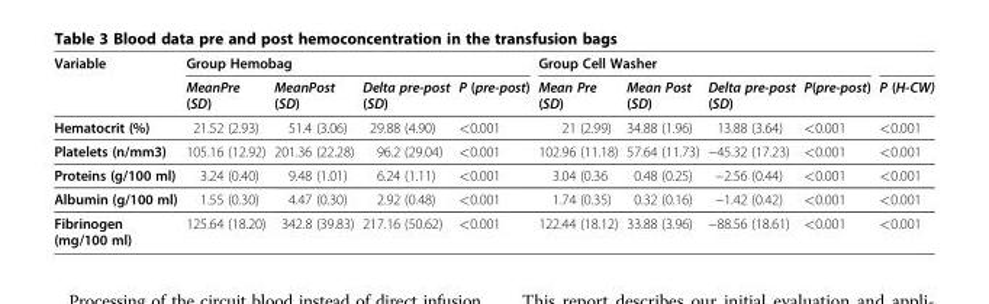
<table><thead><tr><td rowspan="2">Variable</td><td colspan="4">Group Hemobag</td><td colspan="4">Group Cell Washer</td><td rowspan="2">P (H-CW)</td></tr><tr><td>MeanPre (SD)</td><td>MeanPost (SD)</td><td>Delta pre-post (SD)</td><td>P (pre-post)</td><td>Mean Pre (SD)</td><td>Mean Post (SD)</td><td>Delta pre-post (SD)</td><td>P(pre-post)</td></tr></thead><tbody><tr><td>Hematocrit (%)</td><td>21.52 (2.93)</td><td>51.4 (3.06)</td><td>29.88 (4.90)</td><td>&lt;0.001</td><td>21 (2.99)</td><td>34.88 (1.96)</td><td>13.88 (3.64)</td><td>&lt;0.001</td><td>&lt;0.001</td></tr><tr><td>Platelets (n/mm3)</td><td>105.16 (12.92)</td><td>201.36 (22.28)</td><td>96.2 (29.04)</td><td>&lt;0.001</td><td>102.96 (11.18)</td><td>57.64 (11.73)</td><td>−45.32 (17.23)</td><td>&lt;0.001</td><td>&lt;0.001</td></tr><tr><td>Proteins (g/100 ml)</td><td>3.24 (0.40)</td><td>9.48 (1.01)</td><td>6.24 (1.11)</td><td>&lt;0.001</td><td>3.04 (0.36</td><td>0.48 (0.25)</td><td>−2.56 (0.44)</td><td>&lt;0.001</td><td>&lt;0.001</td></tr><tr><td>Albumin (g/100 ml)</td><td>1.55 (0.30)</td><td>4.47 (0.30)</td><td>2.92 (0.48)</td><td>&lt;0.001</td><td>1.74 (0.35)</td><td>0.32 (0.16)</td><td>−1.42 (0.42)</td><td>&lt;0.001</td><td>&lt;0.001</td></tr><tr><td>Fibrinogen (mg/100 ml)</td><td>125.64 (18.20)</td><td>342.8 (39.83)</td><td>217.16 (50.62)</td><td>&lt;0.001</td><td>122.44 (18.12)</td><td>33.88 (3.96)</td><td>−88.56 (18.61)</td><td>&lt;0.001</td><td>&lt;0.001</td></tr></tbody></table>